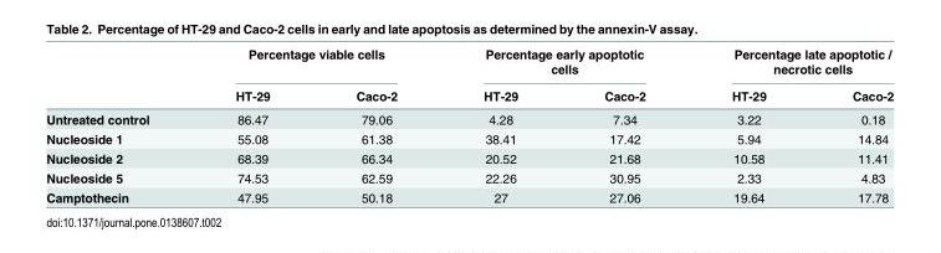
<table><thead><tr><td rowspan="2"></td><td colspan="2">Percentage viable cells</td><td colspan="2">Percentage early apoptotic cells</td><td colspan="2">Percentage late apoptotic / necrotic cells</td></tr><tr><td>HT-29</td><td>Caco-2</td><td>HT-29</td><td>Caco-2</td><td>HT-29</td><td>Caco-2</td></tr></thead><tbody><tr><td>Untreated control</td><td>86.47</td><td>79.06</td><td>4.28</td><td>7.34</td><td>3.22</td><td>0.18</td></tr><tr><td>Nucleoside 1</td><td>55.08</td><td>61.38</td><td>38.41</td><td>17.42</td><td>5.94</td><td>14.84</td></tr><tr><td>Nucleoside 2</td><td>68.39</td><td>66.34</td><td>20.52</td><td>21.68</td><td>10.58</td><td>11.41</td></tr><tr><td>Nucleoside 5</td><td>74.53</td><td>62.59</td><td>22.26</td><td>30.95</td><td>2.33</td><td>4.83</td></tr><tr><td>Camptothecin</td><td>47.95</td><td>50.18</td><td>27</td><td>27.06</td><td>19.64</td><td>17.78</td></tr></tbody></table>